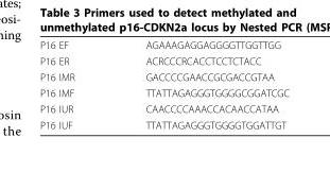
<table><tbody><tr><td>P16 EF</td><td>AGAAAGAGGAGGGGTTGGTTGG</td></tr><tr><td>P16 ER</td><td>ACRCCCRCACCTCCTCTACC</td></tr><tr><td>P16 IMR</td><td>GACCCCGAACCGCGACCGTAA</td></tr><tr><td>P16 IMF</td><td>TTATTAGAGGGTGGGGCGGATCGC</td></tr><tr><td>P16 IUR</td><td>CAACCCCAAACCACAACCATAA</td></tr><tr><td>P16 IUF</td><td>TTATTAGAGGGTGGGGTGGATTGT</td></tr></tbody></table>